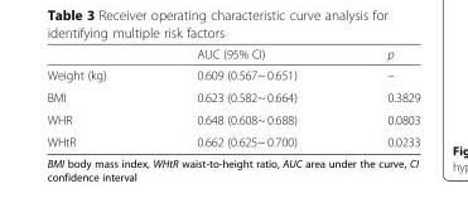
<table><thead><tr><td></td><td>AUC (95% CI)</td><td>p</td></tr></thead><tbody><tr><td>Weight (kg)</td><td>0.609 (0.567~ 0.651)</td><td>–</td></tr><tr><td>BMI</td><td>0.623 (0.582~ 0.664)</td><td>0.3829</td></tr><tr><td>WHR</td><td>0.648 (0.608~ 0.688)</td><td>0.0803</td></tr><tr><td>WHtR</td><td>0.662 (0.625~ 0.700)</td><td>0.0233</td></tr></tbody></table>